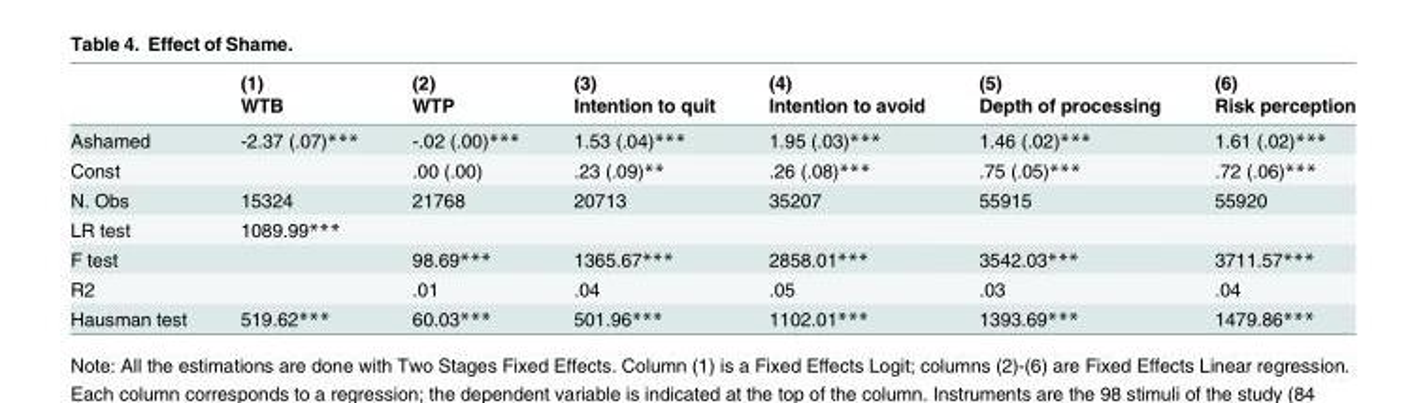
<table><thead><tr><td rowspan="2"></td><td rowspan="2">(1) WTB</td><td rowspan="2">(2) WTP</td><td rowspan="2">(3) Intention to quit</td><td rowspan="2">(4) Intention to avoid</td><td rowspan="2">(5) Depth of processing</td><td rowspan="2">(6) Risk perception</td></tr><tr></tr></thead><tbody><tr><td>Ashamed</td><td>-2.37 (.07)***</td><td>-.02 (.00)***</td><td>1.53 (.04)***</td><td>1.95 (.03)***</td><td>1.46 (.02)***</td><td>1.61 (.02)***</td></tr><tr><td>Const</td><td></td><td>.00 (.00)</td><td>.23 (.09)**</td><td>.26 (.08)***</td><td>.75 (.05)***</td><td>.72 (.06)***</td></tr><tr><td>N. Obs</td><td>15324</td><td>21768</td><td>20713</td><td>35207</td><td>55915</td><td>55920</td></tr><tr><td>LR test</td><td>1089.99***</td><td></td><td></td><td></td><td></td><td></td></tr><tr><td>F test</td><td></td><td>98.69***</td><td>1365.67***</td><td>2858.01***</td><td>3542.03***</td><td>3711.57***</td></tr><tr><td>R2</td><td></td><td>.01</td><td>.04</td><td>.05</td><td>.03</td><td>.04</td></tr><tr><td>Hausman test</td><td>519.62***</td><td>60.03***</td><td>501.96***</td><td>1102.01***</td><td>1393.69***</td><td>1479.86***</td></tr></tbody></table>